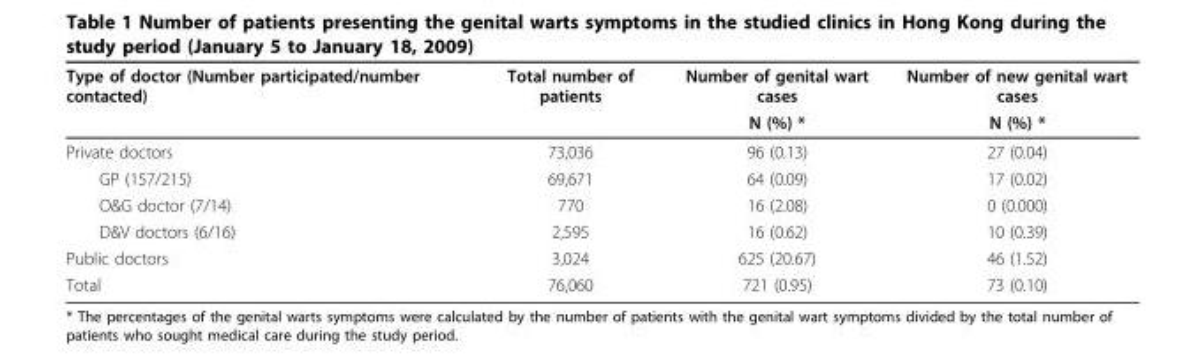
<table><thead><tr><td rowspan="2">Type of doctor (Number participated/number contacted)</td><td rowspan="2">Total number of patients</td><td rowspan="2">Number of genital wart cases N (%) *</td><td rowspan="2">Number of new genital wart cases N (%) *</td></tr><tr></tr></thead><tbody><tr><td>Private doctors</td><td>73,036</td><td>96 (0.13)</td><td>27 (0.04)</td></tr><tr><td>GP (157/215)</td><td>69,671</td><td>64 (0.09)</td><td>17 (0.02)</td></tr><tr><td>O&amp;G doctor (7/14)</td><td>770</td><td>16 (2.08)</td><td>0 (0.000)</td></tr><tr><td>D&amp;V doctors (6/16)</td><td>2,595</td><td>16 (0.62)</td><td>10 (0.39)</td></tr><tr><td>Public doctors</td><td>3,024</td><td>625 (20.67)</td><td>46 (1.52)</td></tr><tr><td>Total</td><td>76,060</td><td>721 (0.95)</td><td>73 (0.10)</td></tr></tbody></table>